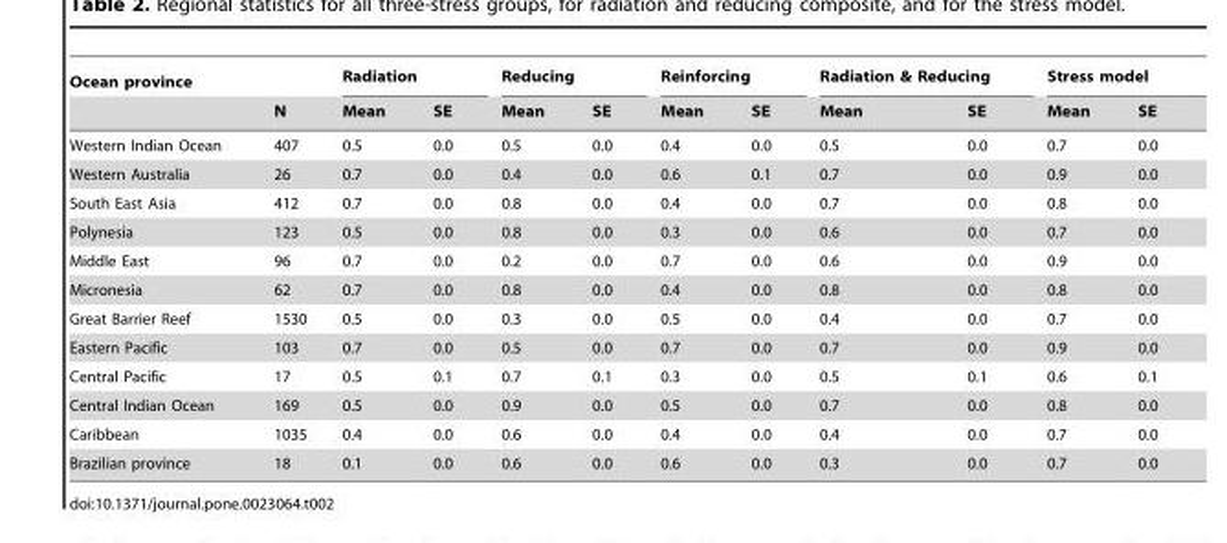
<table><thead><tr><td rowspan="2">Ocean province</td><td rowspan="2">N</td><td colspan="2">Radiation</td><td colspan="2">Reducing</td><td colspan="2">Reinforcing</td><td colspan="2">Radiation &amp; Reducing</td><td colspan="2">Stress model</td></tr><tr><td>Mean</td><td>SE</td><td>Mean</td><td>SE</td><td>Mean</td><td>SE</td><td>Mean</td><td>SE</td><td>Mean</td><td>SE</td></tr></thead><tbody><tr><td>Western Indian Ocean</td><td>407</td><td>0.5</td><td>0.0</td><td>0.5</td><td>0.0</td><td>0.4</td><td>0.0</td><td>0.5</td><td>0.0</td><td>0.7</td><td>0.0</td></tr><tr><td>Western Australia</td><td>26</td><td>0.7</td><td>0.0</td><td>0.4</td><td>0.0</td><td>0.6</td><td>0.1</td><td>0.7</td><td>0.0</td><td>0.9</td><td>0.0</td></tr><tr><td>South East Asia</td><td>412</td><td>0.7</td><td>0.0</td><td>0.8</td><td>0.0</td><td>0.4</td><td>0.0</td><td>0.7</td><td>0.0</td><td>0.8</td><td>0.0</td></tr><tr><td>Polynesia</td><td>123</td><td>0.5</td><td>0.0</td><td>0.8</td><td>0.0</td><td>0.3</td><td>0.0</td><td>0.6</td><td>0.0</td><td>0.7</td><td>0.0</td></tr><tr><td>Middle East</td><td>96</td><td>0.7</td><td>0.0</td><td>0.2</td><td>0.0</td><td>0.7</td><td>0.0</td><td>0.6</td><td>0.0</td><td>0.9</td><td>0.0</td></tr><tr><td>Micronesia</td><td>62</td><td>0.7</td><td>0.0</td><td>0.8</td><td>0.0</td><td>0.4</td><td>0.0</td><td>0.8</td><td>0.0</td><td>0.8</td><td>0.0</td></tr><tr><td>Great Barrier Reef</td><td>1530</td><td>0.5</td><td>0.0</td><td>0.3</td><td>0.0</td><td>0.5</td><td>0.0</td><td>0.4</td><td>0.0</td><td>0.7</td><td>0.0</td></tr><tr><td>Eastern Pacific</td><td>103</td><td>0.7</td><td>0.0</td><td>0.5</td><td>0.0</td><td>0.7</td><td>0.0</td><td>0.7</td><td>0.0</td><td>0.9</td><td>0.0</td></tr><tr><td>Central Pacific</td><td>17</td><td>0.5</td><td>0.1</td><td>0.7</td><td>0.1</td><td>0.3</td><td>0.0</td><td>0.5</td><td>0.1</td><td>0.6</td><td>0.1</td></tr><tr><td>Central Indian Ocean</td><td>169</td><td>0.5</td><td>0.0</td><td>0.9</td><td>0.0</td><td>0.5</td><td>0.0</td><td>0.7</td><td>0.0</td><td>0.8</td><td>0.0</td></tr><tr><td>Caribbean</td><td>1035</td><td>0.4</td><td>0.0</td><td>0.6</td><td>0.0</td><td>0.4</td><td>0.0</td><td>0.4</td><td>0.0</td><td>0.7</td><td>0.0</td></tr><tr><td>Brazilian province</td><td>18</td><td>0.1</td><td>0.0</td><td>0.6</td><td>0.0</td><td>0.6</td><td>0.0</td><td>0.3</td><td>0.0</td><td>0.7</td><td>0.0</td></tr></tbody></table>